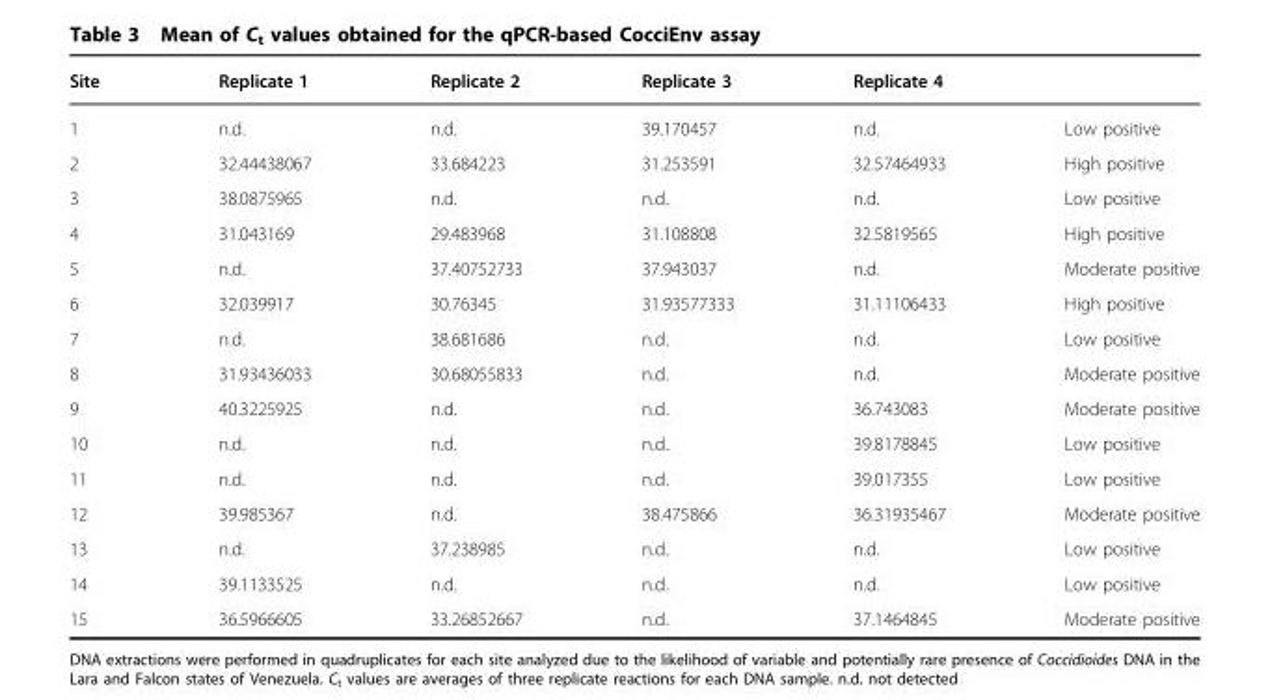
<table><thead><tr><td>Site</td><td>Replicate 1</td><td>Replicate 2</td><td>Replicate 3</td><td>Replicate 4</td><td></td></tr></thead><tbody><tr><td>1</td><td>n.d.</td><td>n.d.</td><td>39.170457</td><td>n.d.</td><td>Low positive</td></tr><tr><td>2</td><td>32.44438067</td><td>33.684223</td><td>31.253591</td><td>32.57464933</td><td>High positive</td></tr><tr><td>3</td><td>38.0875965</td><td>n.d.</td><td>n.d.</td><td>n.d.</td><td>Low positive</td></tr><tr><td>4</td><td>31.043169</td><td>29.483968</td><td>31.108808</td><td>32.5819565</td><td>High positive</td></tr><tr><td>5</td><td>n.d.</td><td>37.40752733</td><td>37.943037</td><td>n.d.</td><td>Moderate positive</td></tr><tr><td>6</td><td>32.039917</td><td>30.76345</td><td>31.93577333</td><td>31.11106433</td><td>High positive</td></tr><tr><td>7</td><td>n.d.</td><td>38.681686</td><td>n.d.</td><td>n.d.</td><td>Low positive</td></tr><tr><td>8</td><td>31.93436033</td><td>30.68055833</td><td>n.d.</td><td>n.d.</td><td>Moderate positive</td></tr><tr><td>9</td><td>40.3225925</td><td>n.d.</td><td>n.d.</td><td>36.743083</td><td>Moderate positive</td></tr><tr><td>10</td><td>n.d.</td><td>n.d.</td><td>n.d.</td><td>39.8178845</td><td>Low positive</td></tr><tr><td>11</td><td>n.d.</td><td>n.d.</td><td>n.d.</td><td>39.017355</td><td>Low positive</td></tr><tr><td>12</td><td>39.985367</td><td>n.d.</td><td>38.475866</td><td>36.31935467</td><td>Moderate positive</td></tr><tr><td>13</td><td>n.d.</td><td>37.238985</td><td>n.d.</td><td>n.d.</td><td>Low positive</td></tr><tr><td>14</td><td>39.1133525</td><td>n.d.</td><td>n.d.</td><td>n.d.</td><td>Low positive</td></tr><tr><td>15</td><td>36.5966605</td><td>33.26852667</td><td>n.d.</td><td>37.1464845</td><td>Moderate positive</td></tr></tbody></table>